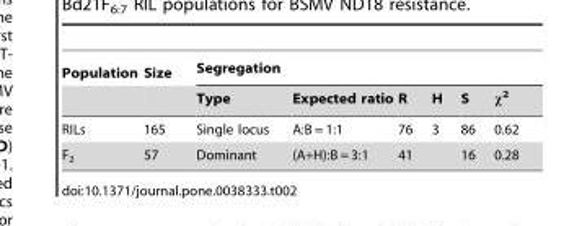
<table><thead><tr><td rowspan="2">Population</td><td rowspan="2">Size</td><td colspan="6">Segregation</td></tr><tr><td>Type</td><td>Expected ratio</td><td>R</td><td>H</td><td>S</td><td>χ<sup>2</sup></td></tr></thead><tbody><tr><td>RILs</td><td>165</td><td>Single locus</td><td>A:B = 1:1</td><td>76</td><td>3</td><td>86</td><td>0.62</td></tr><tr><td>F<sub>2</sub></td><td>57</td><td>Dominant</td><td>(A+H):B = 3:1</td><td colspan="2">41</td><td>16</td><td>0.28</td></tr></tbody></table>